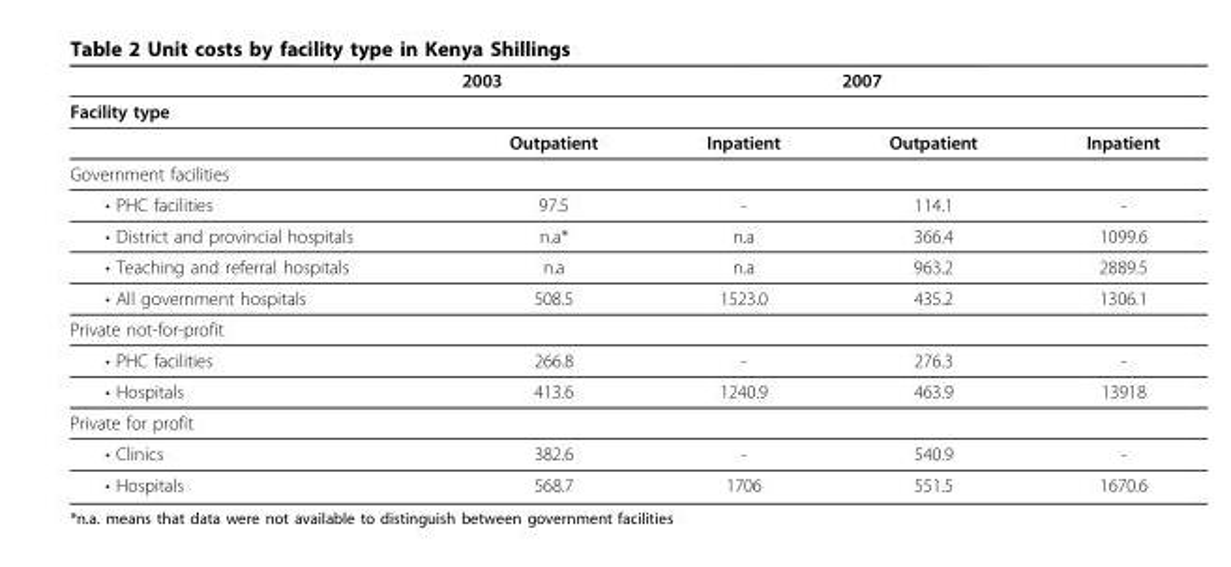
<table><thead><tr><td rowspan="2">Facility type</td><td colspan="2">2003</td><td colspan="2">2007</td></tr><tr><td></td><td></td><td></td><td></td></tr></thead><tbody><tr><td></td><td>Outpatient</td><td>Inpatient</td><td>Outpatient</td><td>Inpatient</td></tr><tr><td colspan="5">Government facilities</td></tr><tr><td>• PHC facilities</td><td>97.5</td><td>-</td><td>114.1</td><td>-</td></tr><tr><td>• District and provincial hospitals</td><td>n.a*</td><td>n.a</td><td>366.4</td><td>1099.6</td></tr><tr><td>• Teaching and referral hospitals</td><td>n.a</td><td>n.a</td><td>963.2</td><td>2889.5</td></tr><tr><td>• All government hospitals</td><td>508.5</td><td>1523.0</td><td>435.2</td><td>1306.1</td></tr><tr><td colspan="5">Private not-for-profit</td></tr><tr><td>• PHC facilities</td><td>266.8</td><td>-</td><td>276.3</td><td>-</td></tr><tr><td>• Hospitals</td><td>413.6</td><td>1240.9</td><td>463.9</td><td>13918</td></tr><tr><td colspan="5">Private for profit</td></tr><tr><td>• Clinics</td><td>382.6</td><td>-</td><td>540.9</td><td>-</td></tr><tr><td>• Hospitals</td><td>568.7</td><td>1706</td><td>551.5</td><td>1670.6</td></tr></tbody></table>